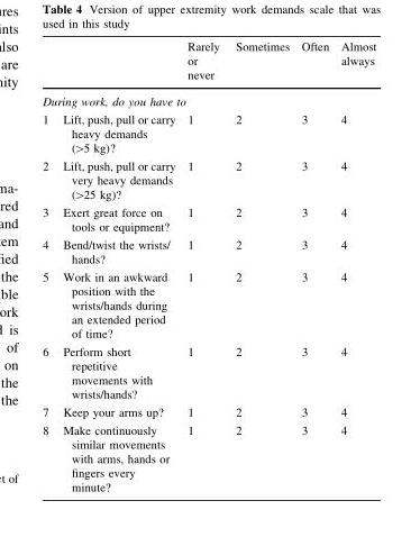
<table><thead><tr><td></td><td></td><td>Rarely or never</td><td>Sometimes</td><td>Often</td><td>Almost always</td></tr></thead><tbody><tr><td colspan="6">During work, do you have to</td></tr><tr><td>1</td><td>Lift, push, pull or carry heavy demands (&gt;5 kg)?</td><td>1</td><td>2</td><td>3</td><td>4</td></tr><tr><td>2</td><td>Lift, push, pull or carry very heavy demands (&gt;25 kg)?</td><td>1</td><td>2</td><td>3</td><td>4</td></tr><tr><td>3</td><td>Exert great force on tools or equipment?</td><td>1</td><td>2</td><td>3</td><td>4</td></tr><tr><td>4</td><td>Bend/twist the wrists/ hands?</td><td>1</td><td>2</td><td>3</td><td>4</td></tr><tr><td>5</td><td>Work in an awkward position with the wrists/hands during an extended period of time?</td><td>1</td><td>2</td><td>3</td><td>4</td></tr><tr><td>6</td><td>Perform short repetitive movements with wrists/hands?</td><td>1</td><td>2</td><td>3</td><td>4</td></tr><tr><td>7</td><td>Keep your arms up?</td><td>1</td><td>2</td><td>3</td><td>4</td></tr><tr><td>8</td><td>Make continuously similar movements with arms, hands or fingers every minute?</td><td>1</td><td>2</td><td>3</td><td>4</td></tr></tbody></table>